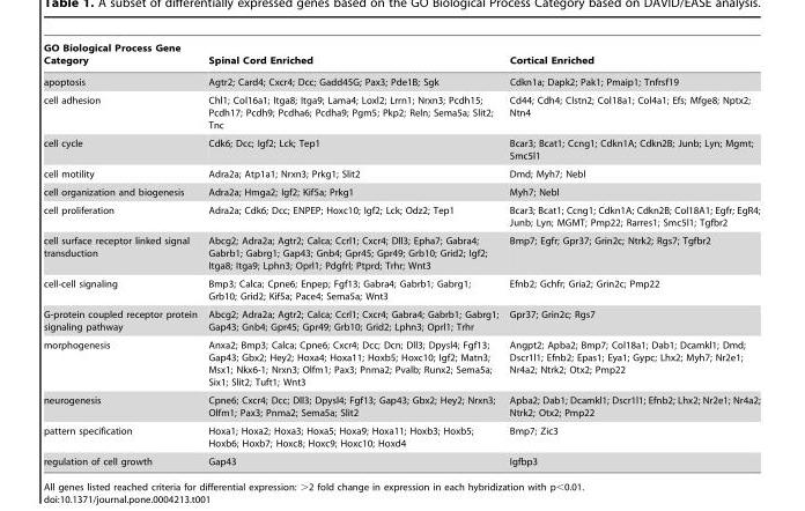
<table><thead><tr><td>GO Biological Process Gene Category</td><td>Spinal Cord Enriched</td><td>Cortical Enriched</td></tr></thead><tbody><tr><td>apoptosis</td><td>Agtr2; Card4; Cxcr4; Dcc; Gadd45G; Pax3; Pde1B; Sgk</td><td>Cdkn1a; Dapk2; Pak1; Pmaip1; Tnfrsf19</td></tr><tr><td>cell adhesion</td><td>Chl1; Col16a1; Itga8; Itga9; Lama4; Loxl2; Lrrn1; Nrxn3; Pcdh15; Pcdh17; Pcdh9; Pcdha6; Pcdha9; Pgm5; Pkp2; Reln; Sema5a; Slit2; Tnc</td><td>Cd44; Cdh4; Clstn2; Col18a1; Col4a1; Efs; Mfge8; Nptx2; Ntn4</td></tr><tr><td>cell cycle</td><td>Cdk6; Dcc; Igf2; Lck; Tep1</td><td>Bcar3; Bcat1; Ccng1; Cdkn1A; Cdkn2B; Junb; Lyn; Mgmt; Smc5l1</td></tr><tr><td>cell motility</td><td>Adra2a; Atp1a1; Nrxn3; Prkg1; Slit2</td><td>Dmd; Myh7; Nebl</td></tr><tr><td>cell organization and biogenesis</td><td>Adra2a; Hmga2; Igf2; Kif5a; Prkg1</td><td>Myh7; Nebl</td></tr><tr><td>cell proliferation</td><td>Adra2a; Cdk6; Dcc; ENPEP; Hoxc10; Igf2; Lck; Odz2; Tep1</td><td>Bcar3; Bcat1; Ccng1; Cdkn1A; Cdkn2B; Col18A1; Egfr; EgR4; Junb; Lyn; MGMT; Pmp22; Rarres1; Smc5l1; Tgfbr2</td></tr><tr><td>cell surface receptor linked signal transduction</td><td>Abcg2; Adra2a; Agtr2; Calca; Ccrl1; Cxcr4; Dll3; Epha7; Gabra4; Gabrb1; Gabrg1; Gap43; Gnb4; Gpr45; Gpr49; Grb10; Grid2; Igf2; Itga8; Itga9; Lphn3; Oprl1; Pdgfrl; Ptprd; Trhr; Wnt3</td><td>Bmp7; Egfr; Gpr37; Grin2c; Ntrk2; Rgs7; Tgfbr2</td></tr><tr><td>cell-cell signaling</td><td>Bmp3; Calca; Cpne6; Enpep; Fgf13; Gabra4; Gabrb1; Gabrg1; Grb10; Grid2; Kif5a; Pace4; Sema5a; Wnt3</td><td>Efnb2; Gchfr; Gria2; Grin2c; Pmp22</td></tr><tr><td>G-protein coupled receptor protein signaling pathway</td><td>Abcg2; Adra2a; Agtr2; Calca; Ccrl1; Cxcr4; Gabra4; Gabrb1; Gabrg1; Gap43; Gnb4; Gpr45; Gpr49; Grb10; Grid2; Lphn3; Oprl1; Trhr</td><td>Gpr37; Grin2c; Rgs7</td></tr><tr><td>morphogenesis</td><td>Anxa2; Bmp3; Calca; Cpne6; Cxcr4; Dcc; Dcn; Dll3; Dpysl4; Fgf13; Gap43; Gbx2; Hey2; Hoxa4; Hoxa11; Hoxb5; Hoxc10; Igf2; Matn3; Msx1; Nkx6-1; Nrxn3; Olfm1; Pax3; Pnma2; Pvalb; Runx2; Sema5a; Six1; Slit2; Tuft1; Wnt3</td><td>Angpt2; Apba2; Bmp7; Col18a1; Dab1; Dcamkl1; Dmd; Dscr1l1; Efnb2; Epas1; Eya1; Gypc; Lhx2; Myh7; Nr2e1; Nr4a2; Ntrk2; Otx2; Pmp22</td></tr><tr><td>neurogenesis</td><td>Cpne6; Cxcr4; Dcc; Dll3; Dpysl4; Fgf13; Gap43; Gbx2; Hey2; Nrxn3; Olfm1; Pax3; Pnma2; Sema5a; Slit2</td><td>Apba2; Dab1; Dcamkl1; Dscr1l1; Efnb2; Lhx2; Nr2e1; Nr4a2; Ntrk2; Otx2; Pmp22</td></tr><tr><td>pattern specification</td><td>Hoxa1; Hoxa2; Hoxa3; Hoxa5; Hoxa9; Hoxa11; Hoxb3; Hoxb5; Hoxb6; Hoxb7; Hoxc8; Hoxc9; Hoxc10; Hoxd4</td><td>Bmp7; Zic3</td></tr><tr><td>regulation of cell growth</td><td>Gap43</td><td>Igfbp3</td></tr></tbody></table>